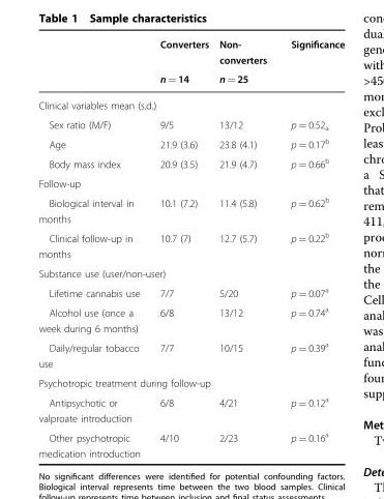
<table><thead><tr><td rowspan="2"></td><td rowspan="2">Converters n = 14</td><td rowspan="2">Non- converters n = 25</td><td rowspan="2">Significance</td></tr><tr></tr></thead><tbody><tr><td colspan="4">Clinical variables mean (s.d.)</td></tr><tr><td>Sex ratio (M/F)</td><td>9/5</td><td>13/12</td><td>p = 0.52<sub>a</sub></td></tr><tr><td>Age</td><td>21.9 (3.6)</td><td>23.8 (4.1)</td><td>p = 0.17<sup>b</sup></td></tr><tr><td>Body mass index</td><td>20.9 (3.5)</td><td>21.9 (4.7)</td><td>p = 0.66<sup>b</sup></td></tr><tr><td colspan="4">Follow-up</td></tr><tr><td>Biological interval in months</td><td>10.1 (7.2)</td><td>11.4 (5.8)</td><td>p = 0.62<sup>b</sup></td></tr><tr><td>Clinical follow-up in months</td><td>10.7 (7)</td><td>12.7 (5.7)</td><td>p = 0.22<sup>b</sup></td></tr><tr><td colspan="4">Substance use (user/non-user)</td></tr><tr><td>Lifetime cannabis use</td><td>7/7</td><td>5/20</td><td>p = 0.07<sup>a</sup></td></tr><tr><td>Alcohol use (once a week during 6 months)</td><td>6/8</td><td>13/12</td><td>p = 0.74<sup>a</sup></td></tr><tr><td>Daily/regular tobacco use</td><td>7/7</td><td>10/15</td><td>p = 0.39<sup>a</sup></td></tr><tr><td colspan="4">Psychotropic treatment during follow-up</td></tr><tr><td>Antipsychotic or valproate introduction</td><td>6/8</td><td>4/21</td><td>p = 0.12<sup>a</sup></td></tr><tr><td>Other psychotropic medication introduction</td><td>4/10</td><td>2/23</td><td>p = 0.16<sup>a</sup></td></tr></tbody></table>